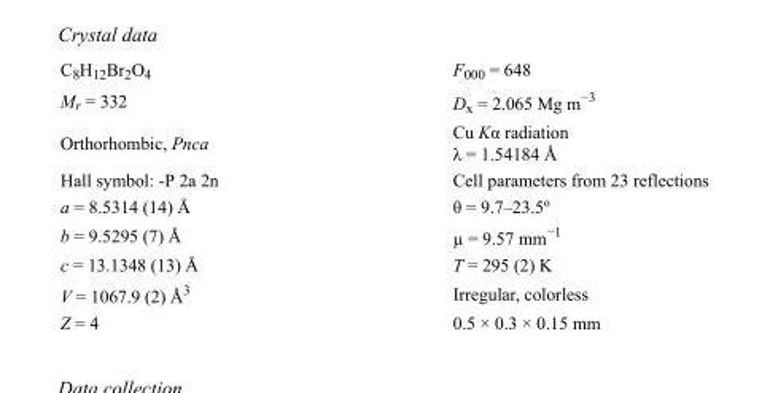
<table><tbody><tr><td>C<sub>8</sub>H<sub>12</sub>Br<sub>2</sub>O<sub>4</sub></td><td>F<sub>000</sub> = 648</td></tr><tr><td>M<sub>r</sub> = 332</td><td>D<sub>x</sub> = 2.065 Mg m<sup>−3</sup></td></tr><tr><td>Orthorhombic, Pnca</td><td>Cu Kα radiation λ = 1.54184 Å</td></tr><tr><td>Hall symbol: -P 2a 2n</td><td>Cell parameters from 23 reflections</td></tr><tr><td>a = 8.5314 (14) Å</td><td>θ = 9.7–23.5º</td></tr><tr><td>b = 9.5295 (7) Å</td><td>µ = 9.57 mm<sup>−1</sup></td></tr><tr><td>c = 13.1348 (13) Å</td><td>T = 295 (2) K</td></tr><tr><td>V = 1067.9 (2) Å<sup>3</sup></td><td>Irregular, colorless</td></tr><tr><td>Z = 4</td><td>0.5 × 0.3 × 0.15 mm</td></tr></tbody></table>